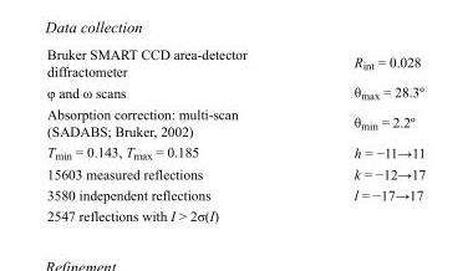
<table><tbody><tr><td>Bruker SMART CCD area-detector diffractometer</td><td>R<sub>int</sub> = 0.028</td></tr><tr><td>φ and ω scans</td><td>θ<sub>max</sub> = 28.3º</td></tr><tr><td>Absorption correction: multi-scan (SADABS; Bruker, 2002)</td><td>θ<sub>min</sub> = 2.2º</td></tr><tr><td>T<sub>min</sub> = 0.143, T<sub>max</sub> = 0.185</td><td>h = −11→11</td></tr><tr><td>15603 measured reflections</td><td>k = −12→17</td></tr><tr><td>3580 independent reflections</td><td>l = −17→17</td></tr><tr><td>2547 reflections with I &gt; 2σ(I)</td><td></td></tr></tbody></table>